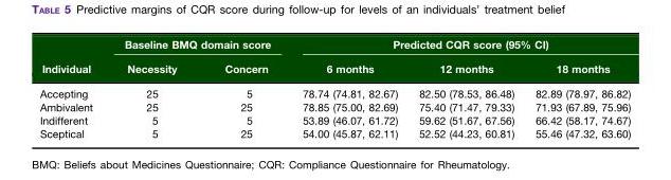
<table><thead><tr><td rowspan="2">Individual</td><td colspan="2">Baseline BMQ domain score</td><td colspan="3">Predicted CQR score (95% CI)</td></tr><tr><td>Necessity</td><td>Concern</td><td>6 months</td><td>12 months</td><td>18 months</td></tr></thead><tbody><tr><td>Accepting</td><td>25</td><td>5</td><td>78.74 (74.81, 82.67)</td><td>82.50 (78.53, 86.48)</td><td>82.89 (78.97, 86.82)</td></tr><tr><td>Ambivalent</td><td>25</td><td>25</td><td>78.85 (75.00, 82.69)</td><td>75.40 (71.47, 79.33)</td><td>71.93 (67.89, 75.96)</td></tr><tr><td>Indifferent</td><td>5</td><td>5</td><td>53.89 (46.07, 61.72)</td><td>59.62 (51.67, 67.56)</td><td>66.42 (58.17, 74.67)</td></tr><tr><td>Sceptical</td><td>5</td><td>25</td><td>54.00 (45.87, 62.11)</td><td>52.52 (44.23, 60.81)</td><td>55.46 (47.32, 63.60)</td></tr></tbody></table>